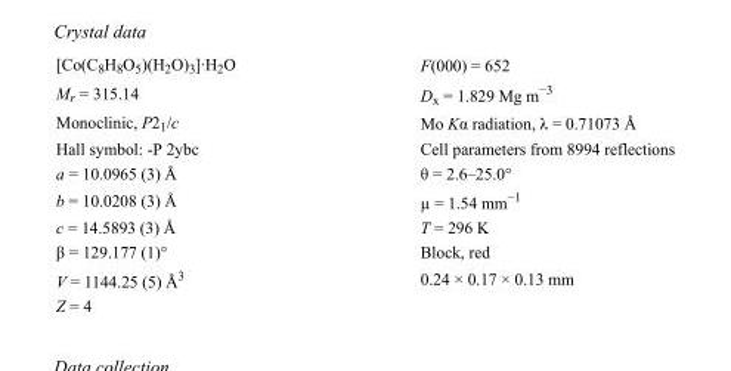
<table><tbody><tr><td>[Co(C<sub>8</sub>H<sub>8</sub>O<sub>5</sub>)(H<sub>2</sub>O)<sub>3</sub>]·H<sub>2</sub>O</td><td>F(000) = 652</td></tr><tr><td>M<sub>r</sub> = 315.14</td><td>D<sub>x</sub> = 1.829 Mg m<sup>−3</sup></td></tr><tr><td>Monoclinic, P2<sub>1</sub>/c</td><td>Mo Kα radiation, λ = 0.71073 Å</td></tr><tr><td>Hall symbol: -P 2ybc</td><td>Cell parameters from 8994 reflections</td></tr><tr><td>a = 10.0965 (3) Å</td><td>θ = 2.6–25.0°</td></tr><tr><td>b = 10.0208 (3) Å</td><td>µ = 1.54 mm<sup>−1</sup></td></tr><tr><td>c = 14.5893 (3) Å</td><td>T = 296 K</td></tr><tr><td>β = 129.177 (1)°</td><td>Block, red</td></tr><tr><td>V = 1144.25 (5) Å<sup>3</sup></td><td>0.24 × 0.17 × 0.13 mm</td></tr><tr><td>Z = 4</td><td></td></tr></tbody></table>